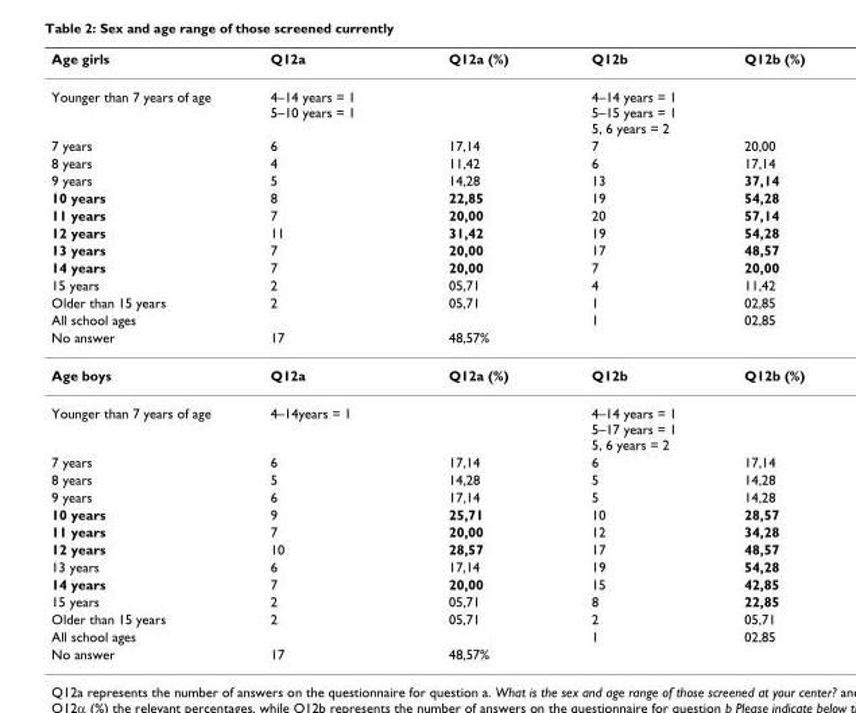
<table><thead><tr><td>Age girls</td><td>Q12a</td><td>Q12a (%)</td><td>Q12b</td><td>Q12b (%)</td></tr></thead><tbody><tr><td>Younger than 7 years of age</td><td>4–14 years = 1 5–10 years = 1</td><td></td><td>4–14 years = 1 5–15 years = 1 5, 6 years = 2</td><td></td></tr><tr><td>7 years</td><td>6</td><td>17,14</td><td>7</td><td>20,00</td></tr><tr><td>8 years</td><td>4</td><td>11,42</td><td>6</td><td>17,14</td></tr><tr><td>9 years</td><td>5</td><td>14,28</td><td>13</td><td>37,14</td></tr><tr><td>10 years</td><td>8</td><td>22,85</td><td>19</td><td>54,28</td></tr><tr><td>11 years</td><td>7</td><td>20,00</td><td>20</td><td>57,14</td></tr><tr><td>12 years</td><td>11</td><td>31,42</td><td>19</td><td>54,28</td></tr><tr><td>13 years</td><td>7</td><td>20,00</td><td>17</td><td>48,57</td></tr><tr><td>14 years</td><td>7</td><td>20,00</td><td>7</td><td>20,00</td></tr><tr><td>15 years</td><td>2</td><td>05,71</td><td>4</td><td>11,42</td></tr><tr><td>Older than 15 years</td><td>2</td><td>05,71</td><td>1</td><td>02,85</td></tr><tr><td>All school ages</td><td></td><td></td><td>1</td><td>02,85</td></tr><tr><td>No answer</td><td>17</td><td>48,57%</td><td></td><td></td></tr><tr><td>Age boys</td><td>Q12a</td><td>Q12a (%)</td><td>Q12b</td><td>Q12b (%)</td></tr><tr><td>Younger than 7 years of age</td><td>4–14years = 1</td><td></td><td>4–14 years = 1 5–17 years = 1 5, 6 years = 2</td><td></td></tr><tr><td>7 years</td><td>6</td><td>17,14</td><td>6</td><td>17,14</td></tr><tr><td>8 years</td><td>5</td><td>14,28</td><td>5</td><td>14,28</td></tr><tr><td>9 years</td><td>6</td><td>17,14</td><td>5</td><td>14,28</td></tr><tr><td>10 years</td><td>9</td><td>25,71</td><td>10</td><td>28,57</td></tr><tr><td>11 years</td><td>7</td><td>20,00</td><td>12</td><td>34,28</td></tr><tr><td>12 years</td><td>10</td><td>28,57</td><td>17</td><td>48,57</td></tr><tr><td>13 years</td><td>6</td><td>17,14</td><td>19</td><td>54,28</td></tr><tr><td>14 years</td><td>7</td><td>20,00</td><td>15</td><td>42,85</td></tr><tr><td>15 years</td><td>2</td><td>05,71</td><td>8</td><td>22,85</td></tr><tr><td>Older than 15 years</td><td>2</td><td>05,71</td><td>2</td><td>05,71</td></tr><tr><td>All school ages</td><td></td><td></td><td>1</td><td>02,85</td></tr><tr><td>No answer</td><td>17</td><td>48,57%</td><td></td><td></td></tr></tbody></table>